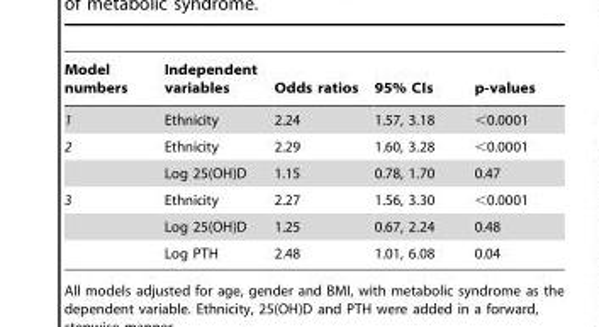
<table><thead><tr><td>Model numbers</td><td>Independent variables</td><td>Odds ratios</td><td>95% CIs</td><td>p-values</td></tr></thead><tbody><tr><td>1</td><td>Ethnicity</td><td>2.24</td><td>1.57, 3.18</td><td>&lt;0.0001</td></tr><tr><td rowspan="2">2</td><td>Ethnicity</td><td>2.29</td><td>1.60, 3.28</td><td>&lt;0.0001</td></tr><tr><td>Log 25(OH)D</td><td>1.15</td><td>0.78, 1.70</td><td>0.47</td></tr><tr><td rowspan="3">3</td><td>Ethnicity</td><td>2.27</td><td>1.56, 3.30</td><td>&lt;0.0001</td></tr><tr><td>Log 25(OH)D</td><td>1.25</td><td>0.67, 2.24</td><td>0.48</td></tr><tr><td>Log PTH</td><td>2.48</td><td>1.01, 6.08</td><td>0.04</td></tr></tbody></table>